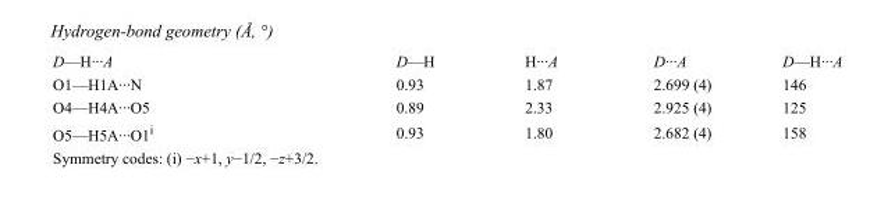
<table><tbody><tr><td>D—H···A</td><td>D—H</td><td>H···A</td><td>D···A</td><td>D—H···A</td></tr><tr><td>O1—H1A···N</td><td>0.93</td><td>1.87</td><td>2.699 (4)</td><td>146</td></tr><tr><td>O4—H4A···O5</td><td>0.89</td><td>2.33</td><td>2.925 (4)</td><td>125</td></tr><tr><td>O5—H5A···O1<sup>i</sup></td><td>0.93</td><td>1.80</td><td>2.682 (4)</td><td>158</td></tr></tbody></table>